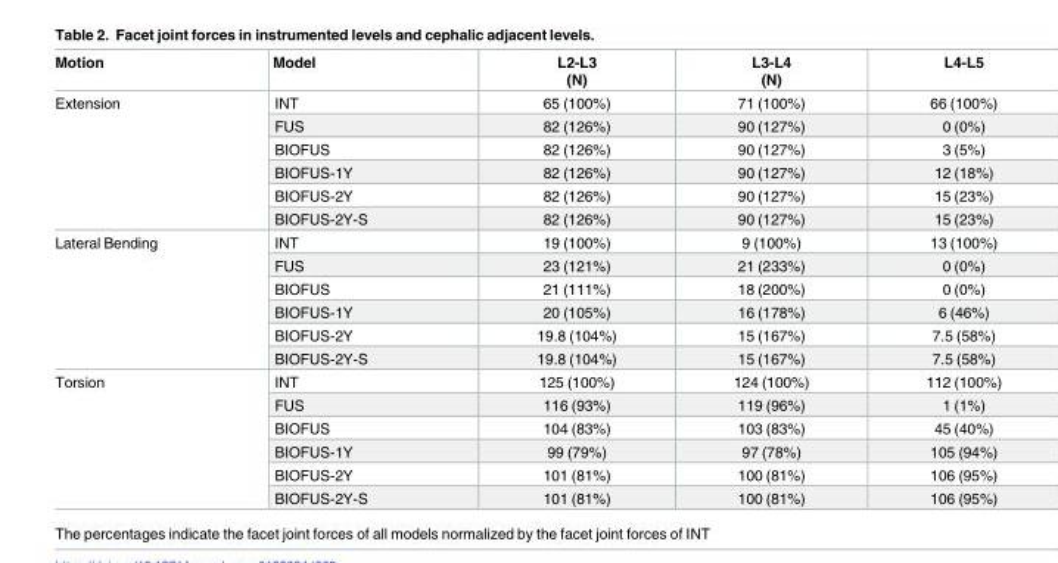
<table><thead><tr><td>Motion</td><td>Model</td><td>L2-L3 (N)</td><td>L3-L4 (N)</td><td>L4-L5</td></tr></thead><tbody><tr><td rowspan="6">Extension</td><td>INT</td><td>65 (100%)</td><td>71 (100%)</td><td>66 (100%)</td></tr><tr><td>FUS</td><td>82 (126%)</td><td>90 (127%)</td><td>0 (0%)</td></tr><tr><td>BIOFUS</td><td>82 (126%)</td><td>90 (127%)</td><td>3 (5%)</td></tr><tr><td>BIOFUS-1Y</td><td>82 (126%)</td><td>90 (127%)</td><td>12 (18%)</td></tr><tr><td>BIOFUS-2Y</td><td>82 (126%)</td><td>90 (127%)</td><td>15 (23%)</td></tr><tr><td>BIOFUS-2Y-S</td><td>82 (126%)</td><td>90 (127%)</td><td>15 (23%)</td></tr><tr><td rowspan="6">Lateral Bending</td><td>INT</td><td>19 (100%)</td><td>9 (100%)</td><td>13 (100%)</td></tr><tr><td>FUS</td><td>23 (121%)</td><td>21 (233%)</td><td>0 (0%)</td></tr><tr><td>BIOFUS</td><td>21 (111%)</td><td>18 (200%)</td><td>0 (0%)</td></tr><tr><td>BIOFUS-1Y</td><td>20 (105%)</td><td>16 (178%)</td><td>6 (46%)</td></tr><tr><td>BIOFUS-2Y</td><td>19.8 (104%)</td><td>15 (167%)</td><td>7.5 (58%)</td></tr><tr><td>BIOFUS-2Y-S</td><td>19.8 (104%)</td><td>15 (167%)</td><td>7.5 (58%)</td></tr><tr><td rowspan="6">Torsion</td><td>INT</td><td>125 (100%)</td><td>124 (100%)</td><td>112 (100%)</td></tr><tr><td>FUS</td><td>116 (93%)</td><td>119 (96%)</td><td>1 (1%)</td></tr><tr><td>BIOFUS</td><td>104 (83%)</td><td>103 (83%)</td><td>45 (40%)</td></tr><tr><td>BIOFUS-1Y</td><td>99 (79%)</td><td>97 (78%)</td><td>105 (94%)</td></tr><tr><td>BIOFUS-2Y</td><td>101 (81%)</td><td>100 (81%)</td><td>106 (95%)</td></tr><tr><td>BIOFUS-2Y-S</td><td>101 (81%)</td><td>100 (81%)</td><td>106 (95%)</td></tr></tbody></table>